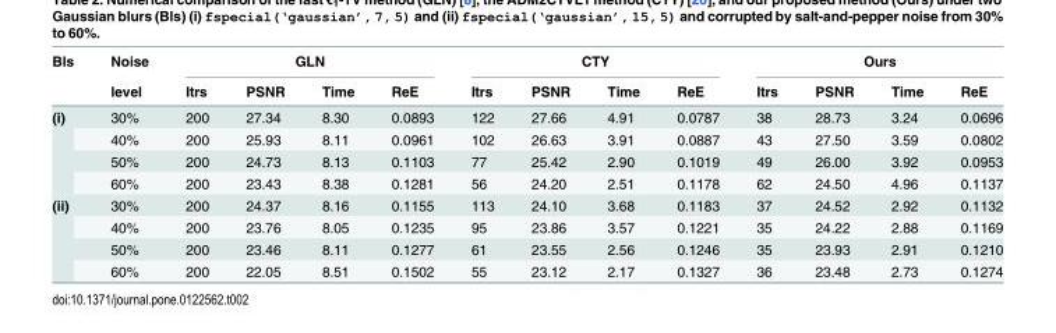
<table><thead><tr><td rowspan="2">Bls</td><td rowspan="2">Noise level</td><td colspan="4">GLN</td><td colspan="4">CTY</td><td colspan="4">Ours</td></tr><tr><td>Itrs</td><td>PSNR</td><td>Time</td><td>ReE</td><td>Itrs</td><td>PSNR</td><td>Time</td><td>ReE</td><td>Itrs</td><td>PSNR</td><td>Time</td><td>ReE</td></tr></thead><tbody><tr><td rowspan="4">(i)</td><td>30%</td><td>200</td><td>27.34</td><td>8.30</td><td>0.0893</td><td>122</td><td>27.66</td><td>4.91</td><td>0.0787</td><td>38</td><td>28.73</td><td>3.24</td><td>0.0696</td></tr><tr><td>40%</td><td>200</td><td>25.93</td><td>8.11</td><td>0.0961</td><td>102</td><td>26.63</td><td>3.91</td><td>0.0887</td><td>43</td><td>27.50</td><td>3.59</td><td>0.0802</td></tr><tr><td>50%</td><td>200</td><td>24.73</td><td>8.13</td><td>0.1103</td><td>77</td><td>25.42</td><td>2.90</td><td>0.1019</td><td>49</td><td>26.00</td><td>3.92</td><td>0.0953</td></tr><tr><td>60%</td><td>200</td><td>23.43</td><td>8.38</td><td>0.1281</td><td>56</td><td>24.20</td><td>2.51</td><td>0.1178</td><td>62</td><td>24.50</td><td>4.96</td><td>0.1137</td></tr><tr><td rowspan="4">(ii)</td><td>30%</td><td>200</td><td>24.37</td><td>8.16</td><td>0.1155</td><td>113</td><td>24.10</td><td>3.68</td><td>0.1183</td><td>37</td><td>24.52</td><td>2.92</td><td>0.1132</td></tr><tr><td>40%</td><td>200</td><td>23.76</td><td>8.05</td><td>0.1235</td><td>95</td><td>23.86</td><td>3.57</td><td>0.1221</td><td>35</td><td>24.22</td><td>2.88</td><td>0.1169</td></tr><tr><td>50%</td><td>200</td><td>23.46</td><td>8.11</td><td>0.1277</td><td>61</td><td>23.55</td><td>2.56</td><td>0.1246</td><td>35</td><td>23.93</td><td>2.91</td><td>0.1210</td></tr><tr><td>60%</td><td>200</td><td>22.05</td><td>8.51</td><td>0.1502</td><td>55</td><td>23.12</td><td>2.17</td><td>0.1327</td><td>36</td><td>23.48</td><td>2.73</td><td>0.1274</td></tr></tbody></table>